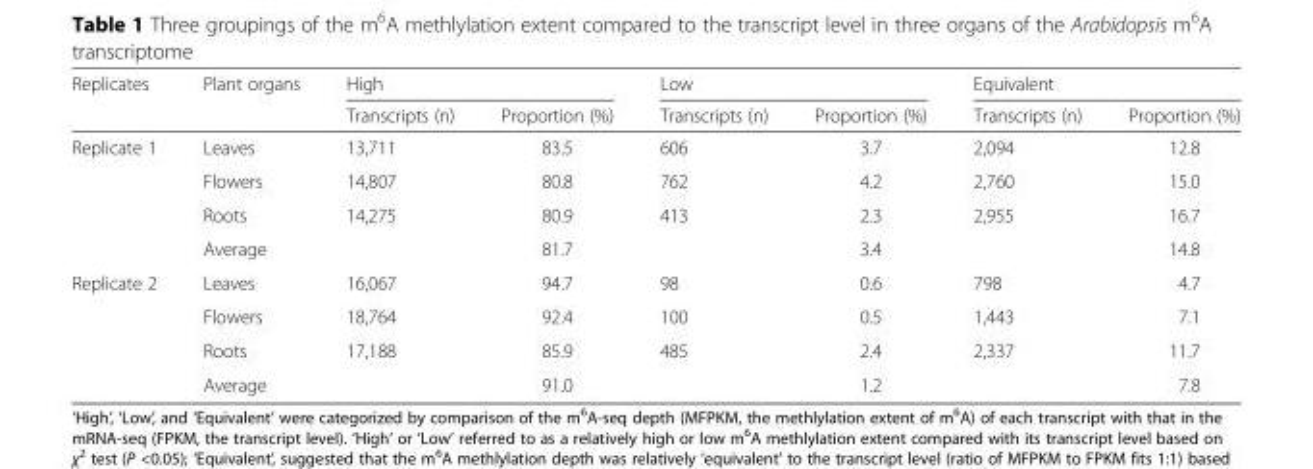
<table><thead><tr><td rowspan="2">Replicates</td><td rowspan="2">Plant organs</td><td colspan="2">High</td><td colspan="2">Low</td><td colspan="2">Equivalent</td></tr><tr><td>Transcripts (n)</td><td>Proportion (%)</td><td>Transcripts (n)</td><td>Proportion (%)</td><td>Transcripts (n)</td><td>Proportion (%)</td></tr></thead><tbody><tr><td rowspan="4">Replicate 1</td><td>Leaves</td><td>13,711</td><td>83.5</td><td>606</td><td>3.7</td><td>2,094</td><td>12.8</td></tr><tr><td>Flowers</td><td>14,807</td><td>80.8</td><td>762</td><td>4.2</td><td>2,760</td><td>15.0</td></tr><tr><td>Roots</td><td>14,275</td><td>80.9</td><td>413</td><td>2.3</td><td>2,955</td><td>16.7</td></tr><tr><td>Average</td><td></td><td>81.7</td><td></td><td>3.4</td><td></td><td>14.8</td></tr><tr><td rowspan="4">Replicate 2</td><td>Leaves</td><td>16,067</td><td>94.7</td><td>98</td><td>0.6</td><td>798</td><td>4.7</td></tr><tr><td>Flowers</td><td>18,764</td><td>92.4</td><td>100</td><td>0.5</td><td>1,443</td><td>7.1</td></tr><tr><td>Roots</td><td>17,188</td><td>85.9</td><td>485</td><td>2.4</td><td>2,337</td><td>11.7</td></tr><tr><td>Average</td><td></td><td>91.0</td><td></td><td>1.2</td><td></td><td>7.8</td></tr></tbody></table>